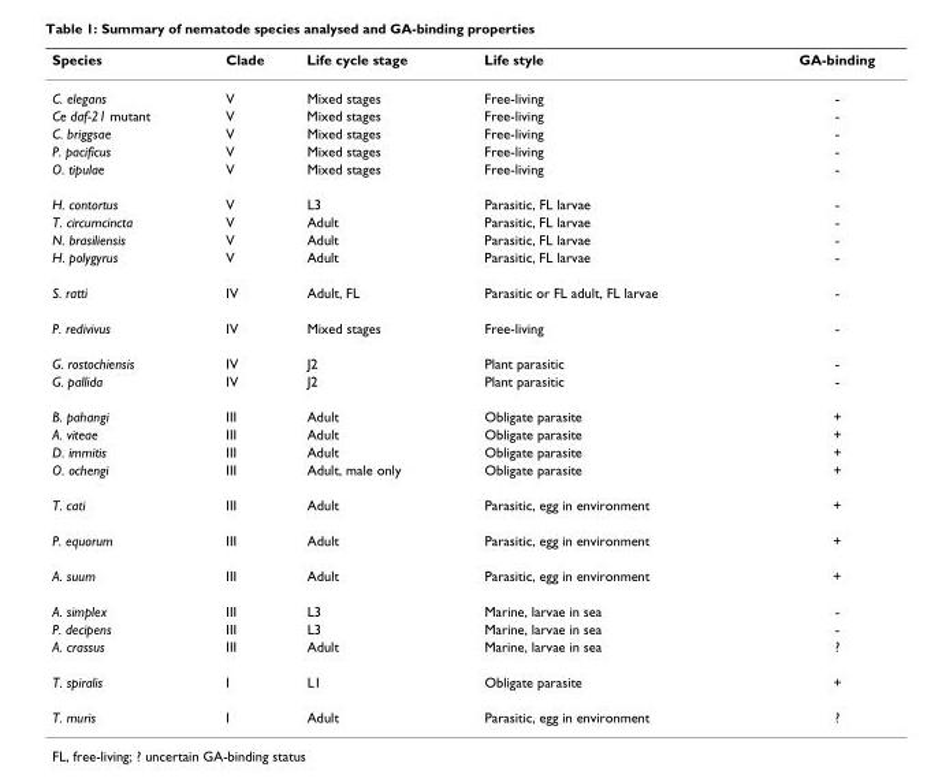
<table><thead><tr><td>Species</td><td>Clade</td><td>Life cycle stage</td><td>Life style</td><td>GA-binding</td></tr></thead><tbody><tr><td>C. elegans</td><td>V</td><td>Mixed stages</td><td>Free-living</td><td>-</td></tr><tr><td>Ce daf-21 mutant</td><td>V</td><td>Mixed stages</td><td>Free-living</td><td>-</td></tr><tr><td>C. briggsae</td><td>V</td><td>Mixed stages</td><td>Free-living</td><td>-</td></tr><tr><td>P. pacificus</td><td>V</td><td>Mixed stages</td><td>Free-living</td><td>-</td></tr><tr><td>O. tipulae</td><td>V</td><td>Mixed stages</td><td>Free-living</td><td>-</td></tr><tr><td>H. contortus</td><td>V</td><td>L3</td><td>Parasitic, FL larvae</td><td>-</td></tr><tr><td>T. circumcincta</td><td>V</td><td>Adult</td><td>Parasitic, FL larvae</td><td>-</td></tr><tr><td>N. brasiliensis</td><td>V</td><td>Adult</td><td>Parasitic, FL larvae</td><td>-</td></tr><tr><td>H. polygyrus</td><td>V</td><td>Adult</td><td>Parasitic, FL larvae</td><td>-</td></tr><tr><td>S. ratti</td><td>IV</td><td>Adult, FL</td><td>Parasitic or FL adult, FL larvae</td><td>-</td></tr><tr><td>P. redivivus</td><td>IV</td><td>Mixed stages</td><td>Free-living</td><td>-</td></tr><tr><td>G. rostochiensis</td><td>IV</td><td>J2</td><td>Plant parasitic</td><td>-</td></tr><tr><td>G. pallida</td><td>IV</td><td>J2</td><td>Plant parasitic</td><td>-</td></tr><tr><td>B. pahangi</td><td>III</td><td>Adult</td><td>Obligate parasite</td><td>+</td></tr><tr><td>A. viteae</td><td>III</td><td>Adult</td><td>Obligate parasite</td><td>+</td></tr><tr><td>D. immitis</td><td>III</td><td>Adult</td><td>Obligate parasite</td><td>+</td></tr><tr><td>O. ochengi</td><td>III</td><td>Adult, male only</td><td>Obligate parasite</td><td>+</td></tr><tr><td>T. cati</td><td>III</td><td>Adult</td><td>Parasitic, egg in environment</td><td>+</td></tr><tr><td>P. equorum</td><td>III</td><td>Adult</td><td>Parasitic, egg in environment</td><td>+</td></tr><tr><td>A. suum</td><td>III</td><td>Adult</td><td>Parasitic, egg in environment</td><td>+</td></tr><tr><td>A. simplex</td><td>III</td><td>L3</td><td>Marine, larvae in sea</td><td>-</td></tr><tr><td>P. decipens</td><td>III</td><td>L3</td><td>Marine, larvae in sea</td><td>-</td></tr><tr><td>A. crassus</td><td>III</td><td>Adult</td><td>Marine, larvae in sea</td><td>?</td></tr><tr><td>T. spiralis</td><td>I</td><td>L1</td><td>Obligate parasite</td><td>+</td></tr><tr><td>T. muris</td><td>I</td><td>Adult</td><td>Parasitic, egg in environment</td><td>?</td></tr></tbody></table>